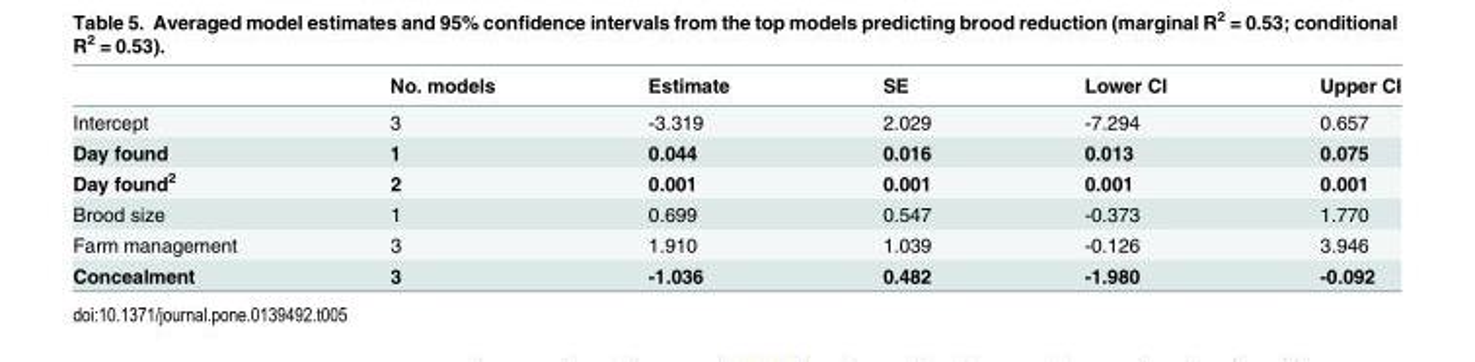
<table><thead><tr><td></td><td>No. models</td><td>Estimate</td><td>SE</td><td>Lower CI</td><td>Upper CI</td></tr></thead><tbody><tr><td>Intercept</td><td>3</td><td>-3.319</td><td>2.029</td><td>-7.294</td><td>0.657</td></tr><tr><td>Day found</td><td>1</td><td>0.044</td><td>0.016</td><td>0.013</td><td>0.075</td></tr><tr><td>Day found<sup>2</sup></td><td>2</td><td>0.001</td><td>0.001</td><td>0.001</td><td>0.001</td></tr><tr><td>Brood size</td><td>1</td><td>0.699</td><td>0.547</td><td>-0.373</td><td>1.770</td></tr><tr><td>Farm management</td><td>3</td><td>1.910</td><td>1.039</td><td>-0.126</td><td>3.946</td></tr><tr><td>Concealment</td><td>3</td><td>-1.036</td><td>0.482</td><td>-1.980</td><td>-0.092</td></tr></tbody></table>